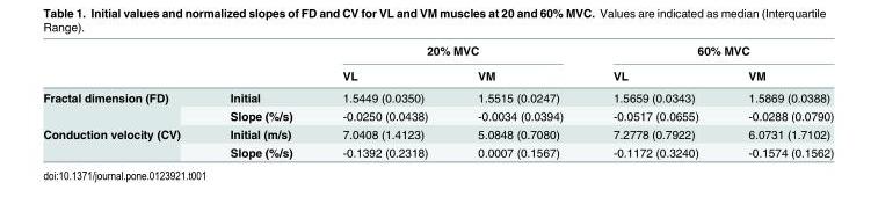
<table><thead><tr><td rowspan="2"></td><td rowspan="2"></td><td colspan="2">20% MVC</td><td colspan="2">60% MVC</td></tr><tr><td>VL</td><td>VM</td><td>VL</td><td>VM</td></tr></thead><tbody><tr><td rowspan="2">Fractal dimension (FD)</td><td>Initial</td><td>1.5449 (0.0350)</td><td>1.5515 (0.0247)</td><td>1.5659 (0.0343)</td><td>1.5869 (0.0388)</td></tr><tr><td>Slope (%/s)</td><td>-0.0250 (0.0438)</td><td>-0.0034 (0.0394)</td><td>-0.0517 (0.0655)</td><td>-0.0288 (0.0790)</td></tr><tr><td rowspan="2">Conduction velocity (CV)</td><td>Initial (m/s)</td><td>7.0408 (1.4123)</td><td>5.0848 (0.7080)</td><td>7.2778 (0.7922)</td><td>6.0731 (1.7102)</td></tr><tr><td>Slope (%/s)</td><td>-0.1392 (0.2318)</td><td>0.0007 (0.1567)</td><td>-0.1172 (0.3240)</td><td>-0.1574 (0.1562)</td></tr></tbody></table>